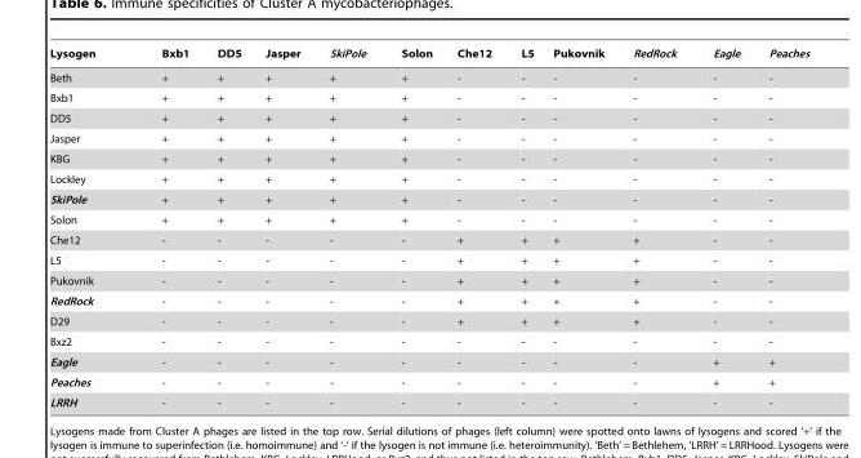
<table><thead><tr><td>Lysogen</td><td>Bxb1</td><td>DD5</td><td>Jasper</td><td>SkiPole</td><td>Solon</td><td>Che12</td><td>L5</td><td>Pukovnik</td><td>RedRock</td><td>Eagle</td><td>Peaches</td></tr></thead><tbody><tr><td>Beth</td><td>+</td><td>+</td><td>+</td><td>+</td><td>+</td><td>-</td><td>-</td><td>-</td><td>-</td><td>-</td><td>-</td></tr><tr><td>Bxb1</td><td>+</td><td>+</td><td>+</td><td>+</td><td>+</td><td>-</td><td>-</td><td>-</td><td>-</td><td>-</td><td>-</td></tr><tr><td>DD5</td><td>+</td><td>+</td><td>+</td><td>+</td><td>+</td><td>-</td><td>-</td><td>-</td><td>-</td><td>-</td><td>-</td></tr><tr><td>Jasper</td><td>+</td><td>+</td><td>+</td><td>+</td><td>+</td><td>-</td><td>-</td><td>-</td><td>-</td><td>-</td><td>-</td></tr><tr><td>KBG</td><td>+</td><td>+</td><td>+</td><td>+</td><td>+</td><td>-</td><td>-</td><td>-</td><td>-</td><td>-</td><td>-</td></tr><tr><td>Lockley</td><td>+</td><td>+</td><td>+</td><td>+</td><td>+</td><td>-</td><td>-</td><td>-</td><td>-</td><td>-</td><td>-</td></tr><tr><td>SkiPole</td><td>+</td><td>+</td><td>+</td><td>+</td><td>+</td><td>-</td><td>-</td><td>-</td><td>-</td><td>-</td><td>-</td></tr><tr><td>Solon</td><td>+</td><td>+</td><td>+</td><td>+</td><td>+</td><td>-</td><td>-</td><td>-</td><td>-</td><td>-</td><td>-</td></tr><tr><td>Che12</td><td>-</td><td>-</td><td>-</td><td>-</td><td>-</td><td>+</td><td>+</td><td>+</td><td>+</td><td>-</td><td>-</td></tr><tr><td>L5</td><td>-</td><td>-</td><td>-</td><td>-</td><td>-</td><td>+</td><td>+</td><td>+</td><td>+</td><td>-</td><td>-</td></tr><tr><td>Pukovnik</td><td>-</td><td>-</td><td>-</td><td>-</td><td>-</td><td>+</td><td>+</td><td>+</td><td>+</td><td>-</td><td>-</td></tr><tr><td>RedRock</td><td>-</td><td>-</td><td>-</td><td>-</td><td>-</td><td>+</td><td>+</td><td>+</td><td>+</td><td>-</td><td>-</td></tr><tr><td>D29</td><td>-</td><td>-</td><td>-</td><td>-</td><td>-</td><td>+</td><td>+</td><td>+</td><td>+</td><td>-</td><td>-</td></tr><tr><td>Bxz2</td><td>-</td><td>-</td><td>-</td><td>-</td><td>-</td><td>-</td><td>-</td><td>-</td><td>-</td><td>-</td><td>-</td></tr><tr><td>Eagle</td><td>-</td><td>-</td><td>-</td><td>-</td><td>-</td><td>-</td><td>-</td><td>-</td><td>-</td><td>+</td><td>+</td></tr><tr><td>Peaches</td><td>-</td><td>-</td><td>-</td><td>-</td><td>-</td><td>-</td><td>-</td><td>-</td><td>-</td><td>+</td><td>+</td></tr><tr><td>LRRH</td><td>-</td><td>-</td><td>-</td><td>-</td><td>-</td><td>-</td><td>-</td><td>-</td><td>-</td><td>-</td><td>-</td></tr></tbody></table>